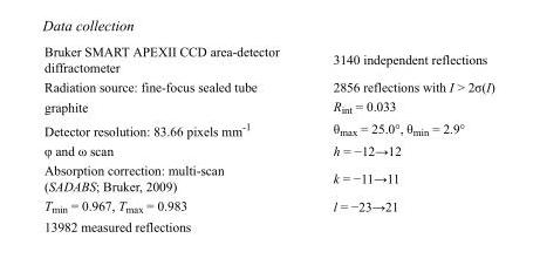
<table><tbody><tr><td>Bruker SMART APEXII CCD area-detector diffractometer</td><td>3140 independent reflections</td></tr><tr><td>Radiation source: fine-focus sealed tube</td><td>2856 reflections with I &gt; 2σ(I)</td></tr><tr><td>graphite</td><td>R<sub>int</sub> = 0.033</td></tr><tr><td>Detector resolution: 83.66 pixels mm<sup>-1</sup></td><td>θ<sub>max</sub> = 25.0°, θ<sub>min</sub> = 2.9°</td></tr><tr><td>φ and ω scan</td><td>h = −12→12</td></tr><tr><td>Absorption correction: multi-scan (SADABS; Bruker, 2009)</td><td>k = −11→11</td></tr><tr><td>T<sub>min</sub> = 0.967, T<sub>max</sub> = 0.983</td><td>l = −23→21</td></tr><tr><td>13982 measured reflections</td><td></td></tr></tbody></table>